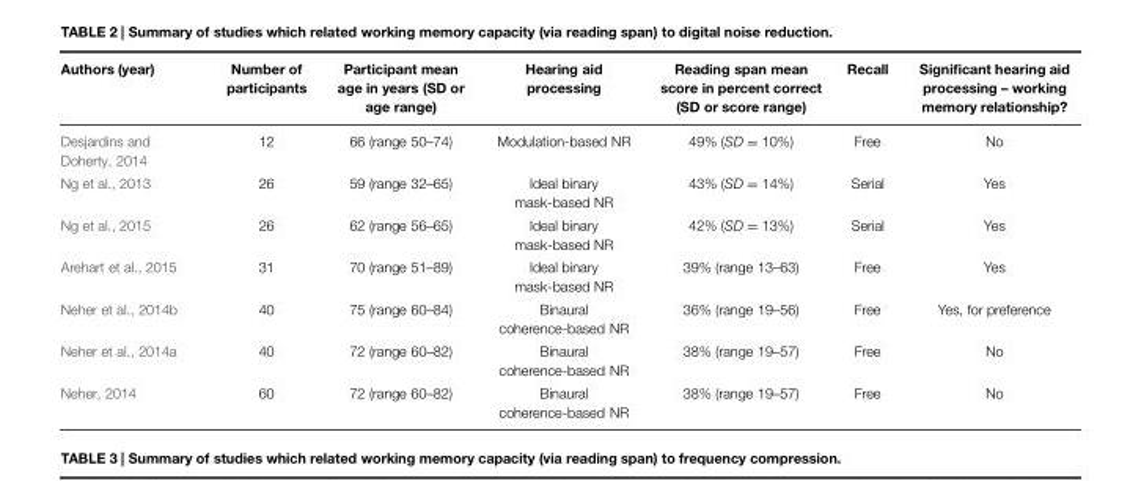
<table><thead><tr><td>Authors (year)</td><td>Number of participants</td><td>Participant mean age in years (SD or age range)</td><td>Hearing aid processing</td><td>Reading span mean score in percent correct (SD or score range)</td><td>Recall</td><td>Significant hearing aid processing – working memory relationship?</td></tr></thead><tbody><tr><td>Desjardins and Doherty, 2014</td><td>12</td><td>66 (range 50–74)</td><td>Modulation-based NR</td><td>49% (SD = 10%)</td><td>Free</td><td>No</td></tr><tr><td>Ng et al., 2013</td><td>26</td><td>59 (range 32–65)</td><td>Ideal binary mask-based NR</td><td>43% (SD = 14%)</td><td>Serial</td><td>Yes</td></tr><tr><td>Ng et al., 2015</td><td>26</td><td>62 (range 56–65)</td><td>Ideal binary mask-based NR</td><td>42% (SD = 13%)</td><td>Serial</td><td>Yes</td></tr><tr><td>Arehart et al., 2015</td><td>31</td><td>70 (range 51–89)</td><td>Ideal binary mask-based NR</td><td>39% (range 13–63)</td><td>Free</td><td>Yes</td></tr><tr><td>Neher et al., 2014b</td><td>40</td><td>75 (range 60–84)</td><td>Binaural coherence-based NR</td><td>36% (range 19–56)</td><td>Free</td><td>Yes, for preference</td></tr><tr><td>Neher et al., 2014a</td><td>40</td><td>72 (range 60–82)</td><td>Binaural coherence-based NR</td><td>38% (range 19–57)</td><td>Free</td><td>No</td></tr><tr><td>Neher, 2014</td><td>60</td><td>72 (range 60–82)</td><td>Binaural coherence-based NR</td><td>38% (range 19–57)</td><td>Free</td><td>No</td></tr></tbody></table>